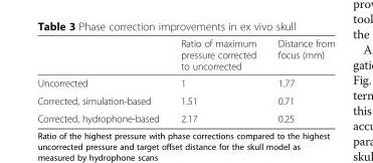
<table><thead><tr><td></td><td>Ratio of maximum pressure corrected to uncorrected</td><td>Distance from focus (mm)</td></tr></thead><tbody><tr><td>Uncorrected</td><td>1</td><td>1.77</td></tr><tr><td>Corrected, simulation-based</td><td>1.51</td><td>0.71</td></tr><tr><td>Corrected, hydrophone-based</td><td>2.17</td><td>0.25</td></tr></tbody></table>